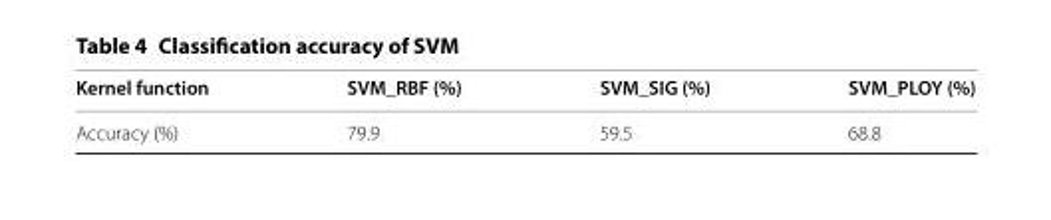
<table><thead><tr><td>Kernel function</td><td>SVM_RBF (%)</td><td>SVM_SIG (%)</td><td>SVM_PLOY (%)</td></tr></thead><tbody><tr><td>Accuracy (%)</td><td>79.9</td><td>59.5</td><td>68.8</td></tr></tbody></table>